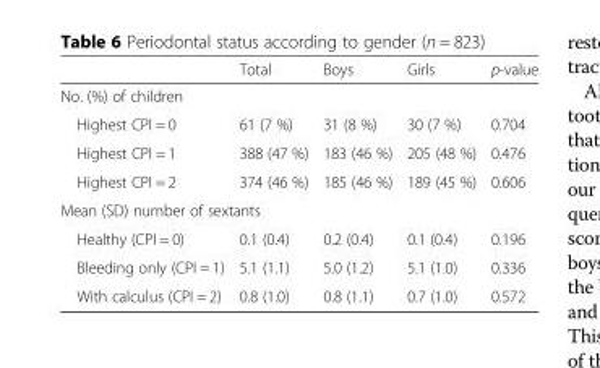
<table><thead><tr><td></td><td>Total</td><td>Boys</td><td>Girls</td><td>p-value</td></tr></thead><tbody><tr><td colspan="5">No. (%) of children</td></tr><tr><td>Highest CPI = 0</td><td>61 (7 %)</td><td>31 (8 %)</td><td>30 (7 %)</td><td>0.704</td></tr><tr><td>Highest CPI = 1</td><td>388 (47 %)</td><td>183 (46 %)</td><td>205 (48 %)</td><td>0.476</td></tr><tr><td>Highest CPI = 2</td><td>374 (46 %)</td><td>185 (46 %)</td><td>189 (45 %)</td><td>0.606</td></tr><tr><td colspan="5">Mean (SD) number of sextants</td></tr><tr><td>Healthy (CPI = 0)</td><td>0.1 (0.4)</td><td>0.2 (0.4)</td><td>0.1 (0.4)</td><td>0.196</td></tr><tr><td>Bleeding only (CPI = 1)</td><td>5.1 (1.1)</td><td>5.0 (1.2)</td><td>5.1 (1.0)</td><td>0.336</td></tr><tr><td>With calculus (CPI = 2)</td><td>0.8 (1.0)</td><td>0.8 (1.1)</td><td>0.7 (1.0)</td><td>0.572</td></tr></tbody></table>